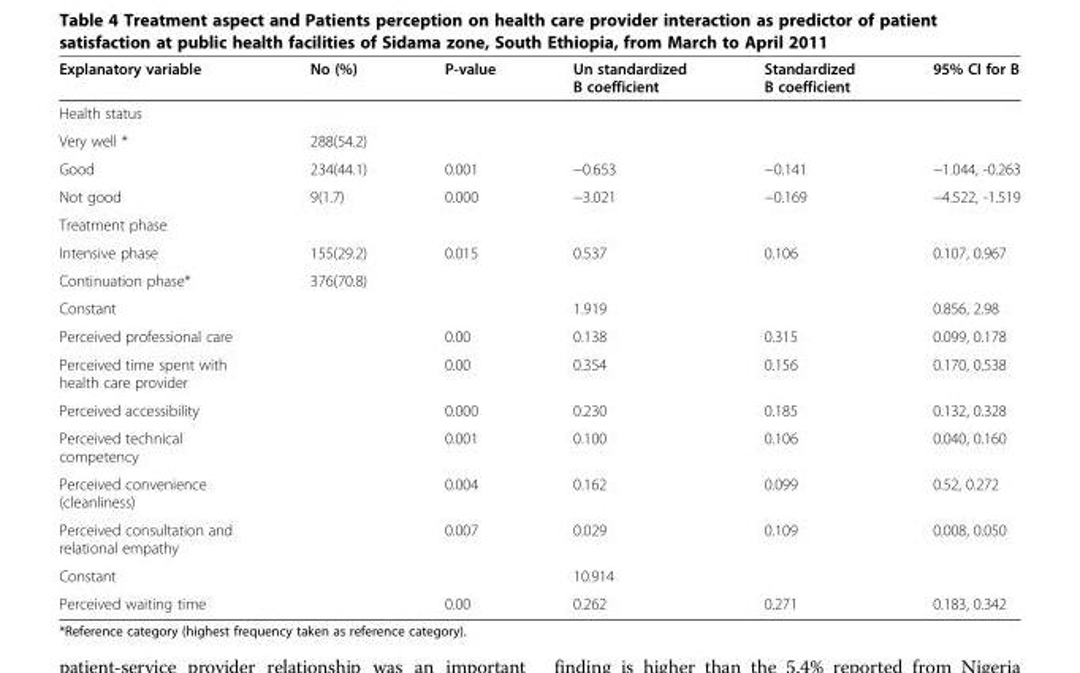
<table><thead><tr><td>Explanatory variable</td><td>No (%)</td><td>P-value</td><td>Un standardized B coefficient</td><td>Standardized B coefficient</td><td>95% CI for B</td></tr></thead><tbody><tr><td colspan="6">Health status</td></tr><tr><td>Very well *</td><td>288(54.2)</td><td></td><td></td><td></td><td></td></tr><tr><td>Good</td><td>234(44.1)</td><td>0.001</td><td>−0.653</td><td>−0.141</td><td>−1.044, -0.263</td></tr><tr><td>Not good</td><td>9(1.7)</td><td>0.000</td><td>−3.021</td><td>−0.169</td><td>−4.522, -1.519</td></tr><tr><td colspan="6">Treatment phase</td></tr><tr><td>Intensive phase</td><td>155(29.2)</td><td>0.015</td><td>0.537</td><td>0.106</td><td>0.107, 0.967</td></tr><tr><td>Continuation phase*</td><td>376(70.8)</td><td></td><td></td><td></td><td></td></tr><tr><td>Constant</td><td></td><td></td><td>1.919</td><td></td><td>0.856, 2.98</td></tr><tr><td>Perceived professional care</td><td></td><td>0.00</td><td>0.138</td><td>0.315</td><td>0.099, 0.178</td></tr><tr><td>Perceived time spent with health care provider</td><td></td><td>0.00</td><td>0.354</td><td>0.156</td><td>0.170, 0.538</td></tr><tr><td>Perceived accessibility</td><td></td><td>0.000</td><td>0.230</td><td>0.185</td><td>0.132, 0.328</td></tr><tr><td>Perceived technical competency</td><td></td><td>0.001</td><td>0.100</td><td>0.106</td><td>0.040, 0.160</td></tr><tr><td>Perceived convenience (cleanliness)</td><td></td><td>0.004</td><td>0.162</td><td>0.099</td><td>0.52, 0.272</td></tr><tr><td>Perceived consultation and relational empathy</td><td></td><td>0.007</td><td>0.029</td><td>0.109</td><td>0.008, 0.050</td></tr><tr><td>Constant</td><td></td><td></td><td>10.914</td><td></td><td></td></tr><tr><td>Perceived waiting time</td><td></td><td>0.00</td><td>0.262</td><td>0.271</td><td>0.183, 0.342</td></tr></tbody></table>